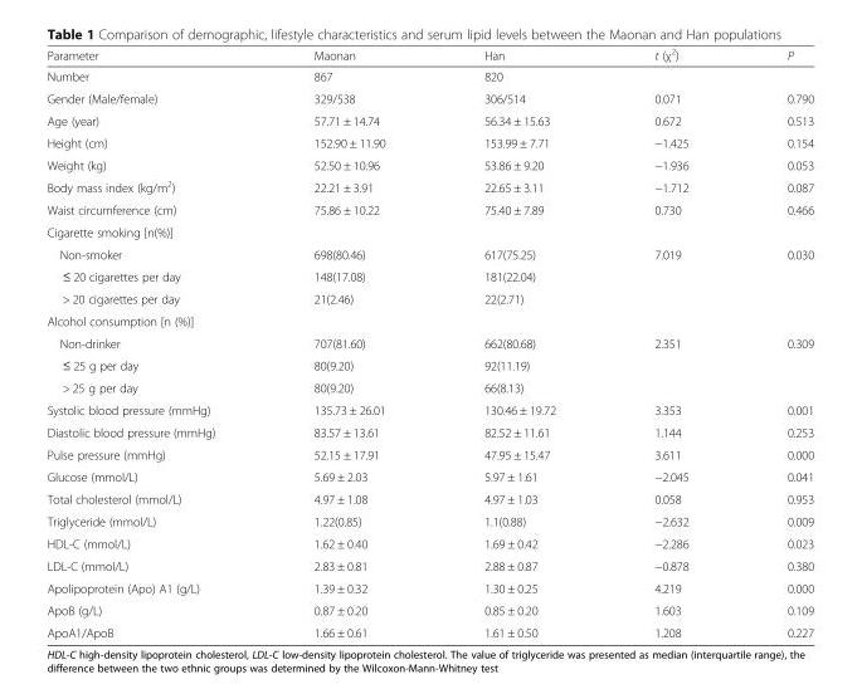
<table><thead><tr><td>Parameter</td><td>Maonan</td><td>Han</td><td>t (χ<sup>2</sup>)</td><td>P</td></tr></thead><tbody><tr><td>Number</td><td>867</td><td>820</td><td></td><td></td></tr><tr><td>Gender (Male/female)</td><td>329/538</td><td>306/514</td><td>0.071</td><td>0.790</td></tr><tr><td>Age (year)</td><td>57.71 ± 14.74</td><td>56.34 ± 15.63</td><td>0.672</td><td>0.513</td></tr><tr><td>Height (cm)</td><td>152.90 ± 11.90</td><td>153.99 ± 7.71</td><td>−1.425</td><td>0.154</td></tr><tr><td>Weight (kg)</td><td>52.50 ± 10.96</td><td>53.86 ± 9.20</td><td>−1.936</td><td>0.053</td></tr><tr><td>Body mass index (kg/m<sup>2</sup>)</td><td>22.21 ± 3.91</td><td>22.65 ± 3.11</td><td>−1.712</td><td>0.087</td></tr><tr><td>Waist circumference (cm)</td><td>75.86 ± 10.22</td><td>75.40 ± 7.89</td><td>0.730</td><td>0.466</td></tr><tr><td colspan="5">Cigarette smoking [n(%)]</td></tr><tr><td>Non-smoker</td><td>698(80.46)</td><td>617(75.25)</td><td rowspan="3">7.019</td><td rowspan="3">0.030</td></tr><tr><td>≤ 20 cigarettes per day</td><td>148(17.08)</td><td>181(22.04)</td></tr><tr><td>&gt; 20 cigarettes per day</td><td>21(2.46)</td><td>22(2.71)</td></tr><tr><td colspan="5">Alcohol consumption [n (%)]</td></tr><tr><td>Non-drinker</td><td>707(81.60)</td><td>662(80.68)</td><td rowspan="3">2.351</td><td rowspan="3">0.309</td></tr><tr><td>≤ 25 g per day</td><td>80(9.20)</td><td>92(11.19)</td></tr><tr><td>&gt; 25 g per day</td><td>80(9.20)</td><td>66(8.13)</td></tr><tr><td>Systolic blood pressure (mmHg)</td><td>135.73 ± 26.01</td><td>130.46 ± 19.72</td><td>3.353</td><td>0.001</td></tr><tr><td>Diastolic blood pressure (mmHg)</td><td>83.57 ± 13.61</td><td>82.52 ± 11.61</td><td>1.144</td><td>0.253</td></tr><tr><td>Pulse pressure (mmHg)</td><td>52.15 ± 17.91</td><td>47.95 ± 15.47</td><td>3.611</td><td>0.000</td></tr><tr><td>Glucose (mmol/L)</td><td>5.69 ± 2.03</td><td>5.97 ± 1.61</td><td>−2.045</td><td>0.041</td></tr><tr><td>Total cholesterol (mmol/L)</td><td>4.97 ± 1.08</td><td>4.97 ± 1.03</td><td>0.058</td><td>0.953</td></tr><tr><td>Triglyceride (mmol/L)</td><td>1.22(0.85)</td><td>1.1(0.88)</td><td>−2.632</td><td>0.009</td></tr><tr><td>HDL-C (mmol/L)</td><td>1.62 ± 0.40</td><td>1.69 ± 0.42</td><td>−2.286</td><td>0.023</td></tr><tr><td>LDL-C (mmol/L)</td><td>2.83 ± 0.81</td><td>2.88 ± 0.87</td><td>−0.878</td><td>0.380</td></tr><tr><td>Apolipoprotein (Apo) A1 (g/L)</td><td>1.39 ± 0.32</td><td>1.30 ± 0.25</td><td>4.219</td><td>0.000</td></tr><tr><td>ApoB (g/L)</td><td>0.87 ± 0.20</td><td>0.85 ± 0.20</td><td>1.603</td><td>0.109</td></tr><tr><td>ApoA1/ApoB</td><td>1.66 ± 0.61</td><td>1.61 ± 0.50</td><td>1.208</td><td>0.227</td></tr></tbody></table>